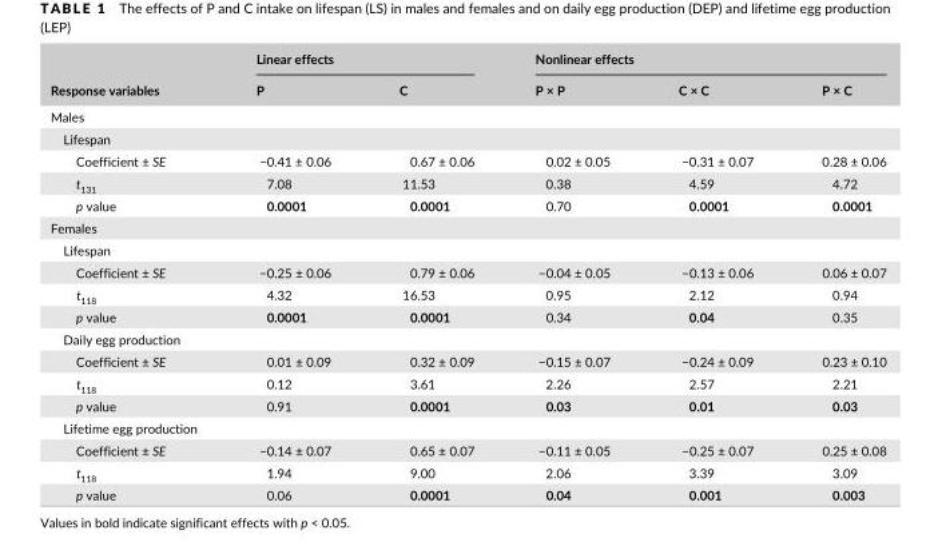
<table><thead><tr><td rowspan="2">Response variables</td><td colspan="2">Linear effects</td><td colspan="3">Nonlinear effects</td></tr><tr><td>P</td><td>C</td><td>P × P</td><td>C × C</td><td>P × C</td></tr></thead><tbody><tr><td colspan="6">Males</td></tr><tr><td colspan="6">Lifespan</td></tr><tr><td>Coefficient ± SE</td><td>−0.41 ± 0.06</td><td>0.67 ± 0.06</td><td>0.02 ± 0.05</td><td>−0.31 ± 0.07</td><td>0.28 ± 0.06</td></tr><tr><td>t<sub>131</sub></td><td>7.08</td><td>11.53</td><td>0.38</td><td>4.59</td><td>4.72</td></tr><tr><td>p value</td><td>0.0001</td><td>0.0001</td><td>0.70</td><td>0.0001</td><td>0.0001</td></tr><tr><td colspan="6">Females</td></tr><tr><td colspan="6">Lifespan</td></tr><tr><td>Coefficient ± SE</td><td>−0.25 ± 0.06</td><td>0.79 ± 0.06</td><td>−0.04 ± 0.05</td><td>−0.13 ± 0.06</td><td>0.06 ± 0.07</td></tr><tr><td>t<sub>118</sub></td><td>4.32</td><td>16.53</td><td>0.95</td><td>2.12</td><td>0.94</td></tr><tr><td>p value</td><td>0.0001</td><td>0.0001</td><td>0.34</td><td>0.04</td><td>0.35</td></tr><tr><td colspan="6">Daily egg production</td></tr><tr><td>Coefficient ± SE</td><td>0.01 ± 0.09</td><td>0.32 ± 0.09</td><td>−0.15 ± 0.07</td><td>−0.24 ± 0.09</td><td>0.23 ± 0.10</td></tr><tr><td>t<sub>118</sub></td><td>0.12</td><td>3.61</td><td>2.26</td><td>2.57</td><td>2.21</td></tr><tr><td>p value</td><td>0.91</td><td>0.0001</td><td>0.03</td><td>0.01</td><td>0.03</td></tr><tr><td colspan="6">Lifetime egg production</td></tr><tr><td>Coefficient ± SE</td><td>−0.14 ± 0.07</td><td>0.65 ± 0.07</td><td>−0.11 ± 0.05</td><td>−0.25 ± 0.07</td><td>0.25 ± 0.08</td></tr><tr><td>t<sub>118</sub></td><td>1.94</td><td>9.00</td><td>2.06</td><td>3.39</td><td>3.09</td></tr><tr><td>p value</td><td>0.06</td><td>0.0001</td><td>0.04</td><td>0.001</td><td>0.003</td></tr></tbody></table>